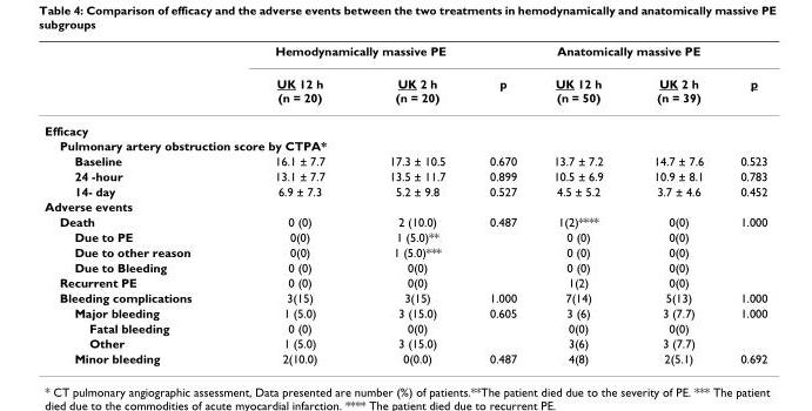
<table><thead><tr><td rowspan="2"></td><td colspan="2">Hemodynamically massive PE</td><td rowspan="2">p</td><td colspan="2">Anatomically massive PE</td><td rowspan="2">p</td></tr><tr><td>UK 12 h (n = 20)</td><td>UK 2 h (n = 20)</td><td>UK 12 h (n = 50)</td><td>UK 2 h (n = 39)</td></tr></thead><tbody><tr><td colspan="7">Efficacy</td></tr><tr><td colspan="7">Pulmonary artery obstruction score by CTPA*</td></tr><tr><td>Baseline</td><td>16.1 ± 7.7</td><td>17.3 ± 10.5</td><td>0.670</td><td>13.7 ± 7.2</td><td>14.7 ± 7.6</td><td>0.523</td></tr><tr><td>24 -hour</td><td>13.1 ± 7.7</td><td>13.5 ± 11.7</td><td>0.899</td><td>10.5 ± 6.9</td><td>10.9 ± 8.1</td><td>0.783</td></tr><tr><td>14- day</td><td>6.9 ± 7.3</td><td>5.2 ± 9.8</td><td>0.527</td><td>4.5 ± 5.2</td><td>3.7 ± 4.6</td><td>0.452</td></tr><tr><td colspan="7">Adverse events</td></tr><tr><td>Death</td><td>0 (0)</td><td>2 (10.0)</td><td>0.487</td><td>1(2)****</td><td>0(0)</td><td>1.000</td></tr><tr><td>Due to PE</td><td>0(0)</td><td>1 (5.0)**</td><td></td><td>0 (0)</td><td>0(0)</td><td></td></tr><tr><td>Due to other reason</td><td>0(0)</td><td>1 (5.0)***</td><td></td><td>0 (0)</td><td>0(0)</td><td></td></tr><tr><td>Due to Bleeding</td><td>0 (0)</td><td>0(0)</td><td></td><td>0 (0)</td><td>0(0)</td><td></td></tr><tr><td>Recurrent PE</td><td>0 (0)</td><td>0(0)</td><td></td><td>1(2)</td><td>0(0)</td><td></td></tr><tr><td>Bleeding complications</td><td>3(15)</td><td>3(15)</td><td>1.000</td><td>7(14)</td><td>5(13)</td><td>1.000</td></tr><tr><td>Major bleeding</td><td>1 (5.0)</td><td>3 (15.0)</td><td>0.605</td><td>3 (6)</td><td>3 (7.7)</td><td>1.000</td></tr><tr><td>Fatal bleeding</td><td>0 (0)</td><td>0(0)</td><td></td><td>0(0)</td><td>0(0)</td><td></td></tr><tr><td>Other</td><td>1 (5.0)</td><td>3 (15.0)</td><td></td><td>3(6)</td><td>3 (7.7)</td><td></td></tr><tr><td>Minor bleeding</td><td>2(10.0)</td><td>0(0.0)</td><td>0.487</td><td>4(8)</td><td>2(5.1)</td><td>0.692</td></tr></tbody></table>